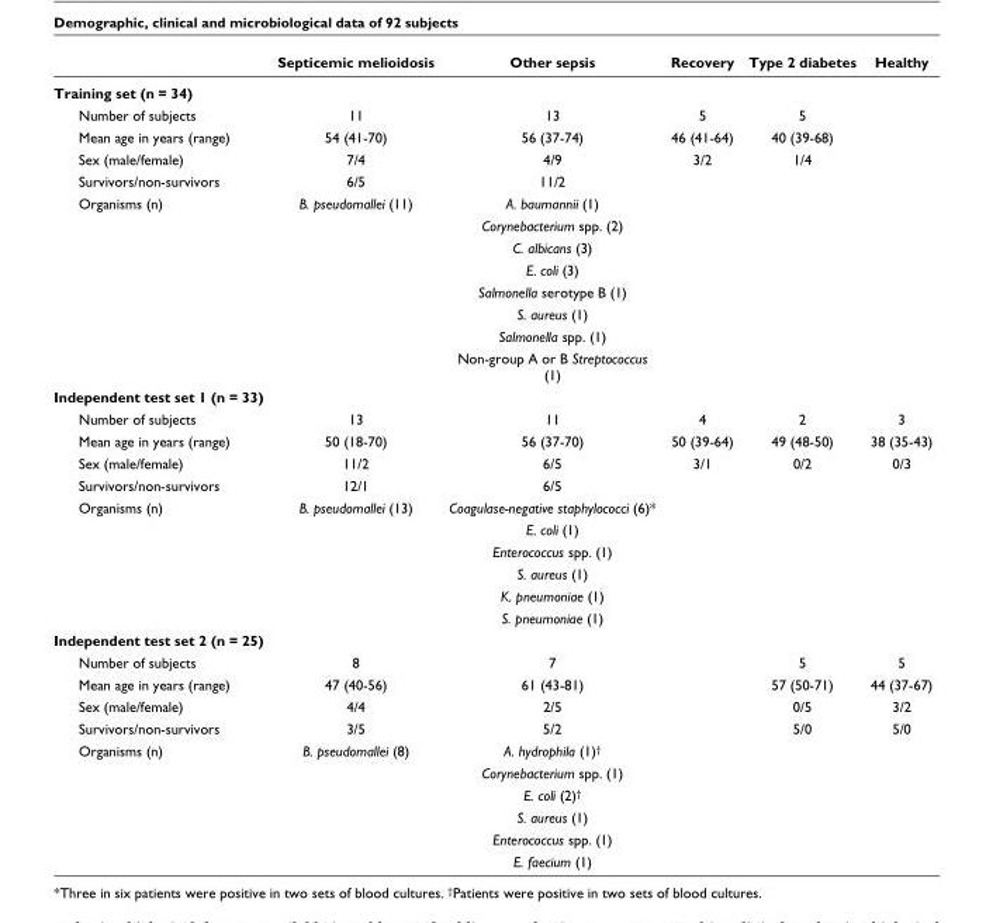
<table><thead><tr><td></td><td>Septicemic melioidosis</td><td>Other sepsis</td><td>Recovery</td><td>Type 2 diabetes</td><td>Healthy</td></tr></thead><tbody><tr><td colspan="6">Training set (n = 34)</td></tr><tr><td>Number of subjects</td><td>11</td><td>13</td><td>5</td><td>5</td><td></td></tr><tr><td>Mean age in years (range)</td><td>54 (41-70)</td><td>56 (37-74)</td><td>46 (41-64)</td><td>40 (39-68)</td><td></td></tr><tr><td>Sex (male/female)</td><td>7/4</td><td>4/9</td><td>3/2</td><td>1/4</td><td></td></tr><tr><td>Survivors/non-survivors</td><td>6/5</td><td>11/2</td><td></td><td></td><td></td></tr><tr><td rowspan="8">Organisms (n)</td><td>B. pseudomallei (11)</td><td>A. baumannii (1)</td><td></td><td></td><td></td></tr><tr><td></td><td>Corynebacterium spp. (2)</td><td></td><td></td><td></td></tr><tr><td></td><td>C. albicans (3)</td><td></td><td></td><td></td></tr><tr><td></td><td>E. coli (3)</td><td></td><td></td><td></td></tr><tr><td></td><td>Salmonella serotype B (1)</td><td></td><td></td><td></td></tr><tr><td></td><td>S. aureus (1)</td><td></td><td></td><td></td></tr><tr><td></td><td>Salmonella spp. (1)</td><td></td><td></td><td></td></tr><tr><td></td><td>Non-group A or B Streptococcus (1)</td><td></td><td></td><td></td></tr><tr><td colspan="6">Independent test set 1 (n = 33)</td></tr><tr><td>Number of subjects</td><td>13</td><td>11</td><td>4</td><td>2</td><td>3</td></tr><tr><td>Mean age in years (range)</td><td>50 (18-70)</td><td>56 (37-70)</td><td>50 (39-64)</td><td>49 (48-50)</td><td>38 (35-43)</td></tr><tr><td>Sex (male/female)</td><td>11/2</td><td>6/5</td><td>3/1</td><td>0/2</td><td>0/3</td></tr><tr><td>Survivors/non-survivors</td><td>12/1</td><td>6/5</td><td></td><td></td><td></td></tr><tr><td rowspan="6">Organisms (n)</td><td>B. pseudomallei (13)</td><td>Coagulase-negative staphylococci (6)*</td><td></td><td></td><td></td></tr><tr><td></td><td>E. coli (1)</td><td></td><td></td><td></td></tr><tr><td></td><td>Enterococcus spp. (1)</td><td></td><td></td><td></td></tr><tr><td></td><td>S. aureus (1)</td><td></td><td></td><td></td></tr><tr><td></td><td>K. pneumoniae (1)</td><td></td><td></td><td></td></tr><tr><td></td><td>S. pneumoniae (1)</td><td></td><td></td><td></td></tr><tr><td colspan="6">Independent test set 2 (n = 25)</td></tr><tr><td>Number of subjects</td><td>8</td><td>7</td><td></td><td>5</td><td>5</td></tr><tr><td>Mean age in years (range)</td><td>47 (40-56)</td><td>61 (43-81)</td><td></td><td>57 (50-71)</td><td>44 (37-67)</td></tr><tr><td>Sex (male/female)</td><td>4/4</td><td>2/5</td><td></td><td>0/5</td><td>3/2</td></tr><tr><td>Survivors/non-survivors</td><td>3/5</td><td>5/2</td><td></td><td>5/0</td><td>5/0</td></tr><tr><td rowspan="6">Organisms (n)</td><td>B. pseudomallei (8)</td><td>A. hydrophila (1)<sup>†</sup></td><td></td><td></td><td></td></tr><tr><td></td><td>Corynebacterium spp. (1)</td><td></td><td></td><td></td></tr><tr><td></td><td>E. coli (2)<sup>†</sup></td><td></td><td></td><td></td></tr><tr><td></td><td>S. aureus (1)</td><td></td><td></td><td></td></tr><tr><td></td><td>Enterococcus spp. (1)</td><td></td><td></td><td></td></tr><tr><td></td><td>E. faecium (1)</td><td></td><td></td><td></td></tr></tbody></table>